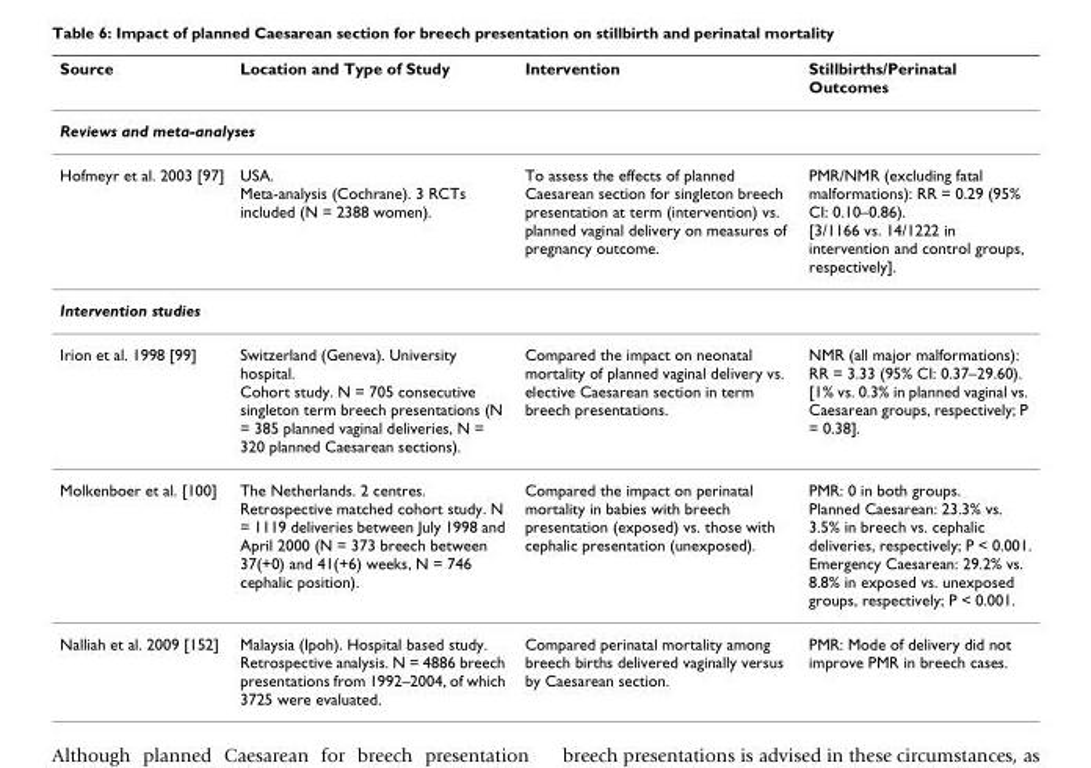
<table><thead><tr><td>Source</td><td>Location and Type of Study</td><td>Intervention</td><td>Stillbirths/Perinatal Outcomes</td></tr></thead><tbody><tr><td colspan="4">Reviews and meta-analyses</td></tr><tr><td>Hofmeyr et al. 2003 [97]</td><td>USA. Meta-analysis (Cochrane). 3 RCTs included (N = 2388 women).</td><td>To assess the effects of planned Caesarean section for singleton breech presentation at term (intervention) vs. planned vaginal delivery on measures of pregnancy outcome.</td><td>PMR/NMR (excluding fatal malformations): RR = 0.29 (95% CI: 0.10–0.86). [3/1166 vs. 14/1222 in intervention and control groups, respectively].</td></tr><tr><td colspan="4">Intervention studies</td></tr><tr><td>Irion et al. 1998 [99]</td><td>Switzerland (Geneva). University hospital. Cohort study. N = 705 consecutive singleton term breech presentations (N = 385 planned vaginal deliveries, N = 320 planned Caesarean sections).</td><td>Compared the impact on neonatal mortality of planned vaginal delivery vs. elective Caesarean section in term breech presentations.</td><td>NMR (all major malformations): RR = 3.33 (95% CI: 0.37–29.60). [1% vs. 0.3% in planned vaginal vs. Caesarean groups, respectively; P = 0.38].</td></tr><tr><td>Molkenboer et al. [100]</td><td>The Netherlands. 2 centres. Retrospective matched cohort study. N = 1119 deliveries between July 1998 and April 2000 (N = 373 breech between 37(+0) and 41(+6) weeks, N = 746 cephalic position).</td><td>Compared the impact on perinatal mortality in babies with breech presentation (exposed) vs. those with cephalic presentation (unexposed).</td><td>PMR: 0 in both groups. Planned Caesarean: 23.3% vs. 3.5% in breech vs. cephalic deliveries, respectively; P &lt; 0.001. Emergency Caesarean: 29.2% vs. 8.8% in exposed vs. unexposed groups, respectively; P &lt; 0.001.</td></tr><tr><td>Nalliah et al. 2009 [152]</td><td>Malaysia (Ipoh). Hospital based study. Retrospective analysis. N = 4886 breech presentations from 1992–2004, of which 3725 were evaluated.</td><td>Compared perinatal mortality among breech births delivered vaginally versus by Caesarean section.</td><td>PMR: Mode of delivery did not improve PMR in breech cases.</td></tr></tbody></table>